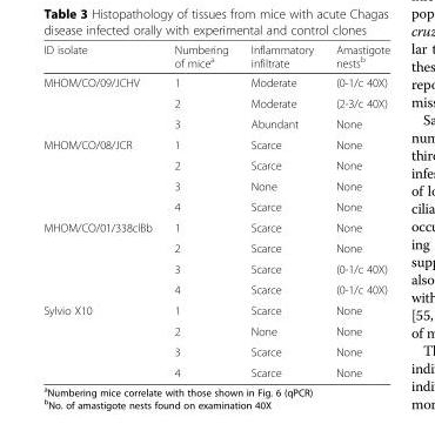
<table><thead><tr><td>ID isolate</td><td>Numbering of mice<sup>a</sup></td><td>Inflammatory infiltrate</td><td>Amastigote nests<sup>b</sup></td></tr></thead><tbody><tr><td rowspan="3">MHOM/CO/09/JCHV</td><td>1</td><td>Moderate</td><td>(0-1/c 40X)</td></tr><tr><td>2</td><td>Moderate</td><td>(2-3/c 40X)</td></tr><tr><td>3</td><td>Abundant</td><td>None</td></tr><tr><td rowspan="4">MHOM/CO/08/JCR</td><td>1</td><td>Scarce</td><td>None</td></tr><tr><td>2</td><td>Scarce</td><td>None</td></tr><tr><td>3</td><td>None</td><td>None</td></tr><tr><td>4</td><td>Scarce</td><td>None</td></tr><tr><td rowspan="4">MHOM/CO/01/338clBb</td><td>1</td><td>Scarce</td><td>None</td></tr><tr><td>2</td><td>Scarce</td><td>None</td></tr><tr><td>3</td><td>Scarce</td><td>(0-1/c 40X)</td></tr><tr><td>4</td><td>Scarce</td><td>(0-1/c 40X)</td></tr><tr><td rowspan="4">Sylvio X10</td><td>1</td><td>Scarce</td><td>None</td></tr><tr><td>2</td><td>None</td><td>None</td></tr><tr><td>3</td><td>Scarce</td><td>None</td></tr><tr><td>4</td><td>Scarce</td><td>None</td></tr></tbody></table>